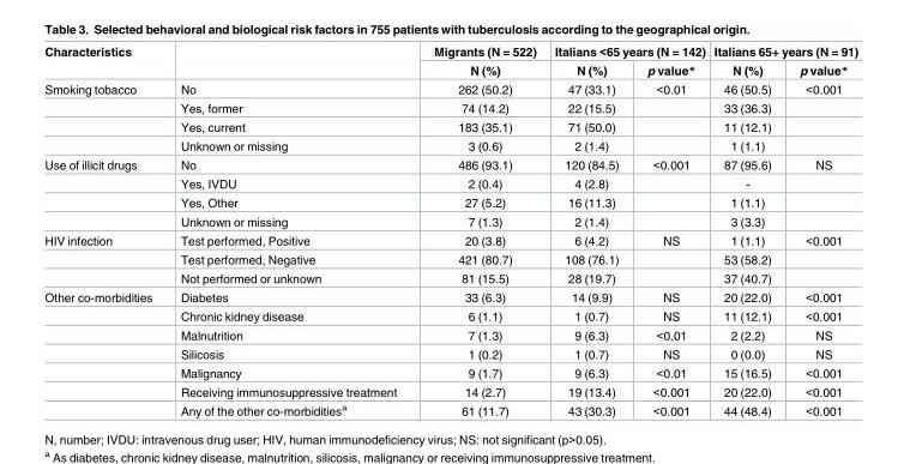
<table><thead><tr><td rowspan="2">Characteristics</td><td rowspan="2"></td><td rowspan="2">Migrants (N = 522) N (%)</td><td colspan="2">Italians &lt;65 years (N = 142)</td><td colspan="2">Italians 65+ years (N = 91)</td></tr><tr><td>N (%)</td><td>p value*</td><td>N (%)</td><td>p value*</td></tr></thead><tbody><tr><td rowspan="4">Smoking tobacco</td><td>No</td><td>262 (50.2)</td><td>47 (33.1)</td><td>&lt;0.01</td><td>46 (50.5)</td><td>&lt;0.001</td></tr><tr><td>Yes, former</td><td>74 (14.2)</td><td>22 (15.5)</td><td></td><td>33 (36.3)</td><td></td></tr><tr><td>Yes, current</td><td>183 (35.1)</td><td>71 (50.0)</td><td></td><td>11 (12.1)</td><td></td></tr><tr><td>Unknown or missing</td><td>3 (0.6)</td><td>2 (1.4)</td><td></td><td>1 (1.1)</td><td></td></tr><tr><td rowspan="4">Use of illicit drugs</td><td>No</td><td>486 (93.1)</td><td>120 (84.5)</td><td>&lt;0.001</td><td>87 (95.6)</td><td>NS</td></tr><tr><td>Yes, IVDU</td><td>2 (0.4)</td><td>4 (2.8)</td><td></td><td>-</td><td></td></tr><tr><td>Yes, Other</td><td>27 (5.2)</td><td>16 (11.3)</td><td></td><td>1 (1.1)</td><td></td></tr><tr><td>Unknown or missing</td><td>7 (1.3)</td><td>2 (1.4)</td><td></td><td>3 (3.3)</td><td></td></tr><tr><td rowspan="3">HIV infection</td><td>Test performed, Positive</td><td>20 (3.8)</td><td>6 (4.2)</td><td>NS</td><td>1 (1.1)</td><td>&lt;0.001</td></tr><tr><td>Test performed, Negative</td><td>421 (80.7)</td><td>108 (76.1)</td><td></td><td>53 (58.2)</td><td></td></tr><tr><td>Not performed or unknown</td><td>81 (15.5)</td><td>28 (19.7)</td><td></td><td>37 (40.7)</td><td></td></tr><tr><td rowspan="7">Other co-morbidities</td><td>Diabetes</td><td>33 (6.3)</td><td>14 (9.9)</td><td>NS</td><td>20 (22.0)</td><td>&lt;0.001</td></tr><tr><td>Chronic kidney disease</td><td>6 (1.1)</td><td>1 (0.7)</td><td>NS</td><td>11 (12.1)</td><td>&lt;0.001</td></tr><tr><td>Malnutrition</td><td>7 (1.3)</td><td>9 (6.3)</td><td>&lt;0.01</td><td>2 (2.2)</td><td>NS</td></tr><tr><td>Silicosis</td><td>1 (0.2)</td><td>1 (0.7)</td><td>NS</td><td>0 (0.0)</td><td>NS</td></tr><tr><td>Malignancy</td><td>9 (1.7)</td><td>9 (6.3)</td><td>&lt;0.01</td><td>15 (16.5)</td><td>&lt;0.001</td></tr><tr><td>Receiving immunosuppressive treatment</td><td>14 (2.7)</td><td>19 (13.4)</td><td>&lt;0.001</td><td>20 (22.0)</td><td>&lt;0.001</td></tr><tr><td>Any of the other co-morbidities<sup>a</sup></td><td>61 (11.7)</td><td>43 (30.3)</td><td>&lt;0.001</td><td>44 (48.4)</td><td>&lt;0.001</td></tr></tbody></table>